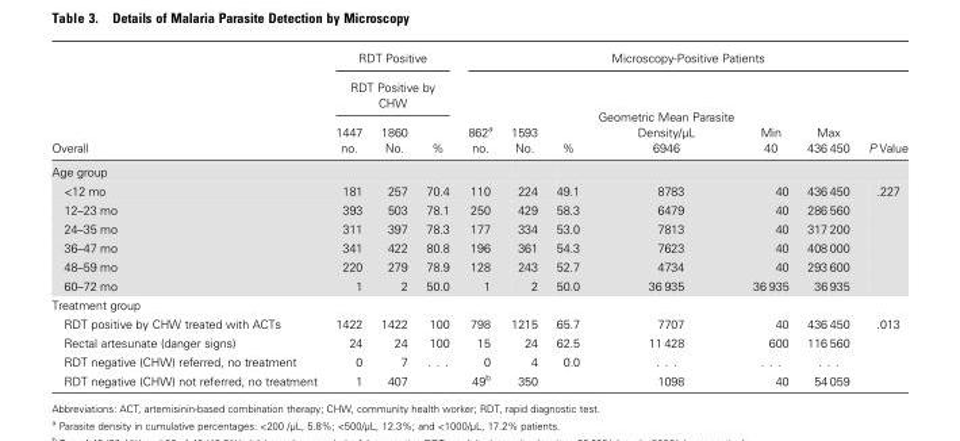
<table><thead><tr><td rowspan="4">Overall</td><td rowspan="2" colspan="3">RDT Positive RDT Positive by CHW</td><td colspan="7">Microscopy-Positive Patients</td></tr><tr><td rowspan="3">862a no.</td><td rowspan="3">1593 No.</td><td rowspan="3">%</td><td rowspan="3">Geometric Mean Parasite Density/µL 6946</td><td rowspan="3">Min 40</td><td rowspan="3">Max 436 450</td><td rowspan="3">P Value</td></tr><tr><td rowspan="2">1447 no.</td><td rowspan="2">1860 No.</td><td rowspan="2">%</td></tr><tr></tr></thead><tbody><tr><td colspan="11">Age group</td></tr><tr><td>&lt;12 mo</td><td>181</td><td>257</td><td>70.4</td><td>110</td><td>224</td><td>49.1</td><td>8783</td><td>40</td><td>436 450</td><td rowspan="6">.227</td></tr><tr><td>12–23 mo</td><td>393</td><td>503</td><td>78.1</td><td>250</td><td>429</td><td>58.3</td><td>6479</td><td>40</td><td>286 560</td></tr><tr><td>24–35 mo</td><td>311</td><td>397</td><td>78.3</td><td>177</td><td>334</td><td>53.0</td><td>7813</td><td>40</td><td>317 200</td></tr><tr><td>36–47 mo</td><td>341</td><td>422</td><td>80.8</td><td>196</td><td>361</td><td>54.3</td><td>7623</td><td>40</td><td>408 000</td></tr><tr><td>48–59 mo</td><td>220</td><td>279</td><td>78.9</td><td>128</td><td>243</td><td>52.7</td><td>4734</td><td>40</td><td>293 600</td></tr><tr><td>60–72 mo</td><td>1</td><td>2</td><td>50.0</td><td>1</td><td>2</td><td>50.0</td><td>36 935</td><td>36 935</td><td>36 935</td></tr><tr><td colspan="11">Treatment group</td></tr><tr><td>RDT positive by CHW treated with ACTs</td><td>1422</td><td>1422</td><td>100</td><td>798</td><td>1215</td><td>65.7</td><td>7707</td><td>40</td><td>436 450</td><td rowspan="4">.013</td></tr><tr><td>Rectal artesunate (danger signs)</td><td>24</td><td>24</td><td>100</td><td>15</td><td>24</td><td>62.5</td><td>11 428</td><td>600</td><td>116 560</td></tr><tr><td>RDT negative (CHW) referred, no treatment</td><td>0</td><td>7</td><td>. . .</td><td>0</td><td>4</td><td>0.0</td><td>. . .</td><td>. . .</td><td>. . .</td></tr><tr><td>RDT negative (CHW) not referred, no treatment</td><td>1</td><td>407</td><td></td><td>49<sup>b</sup></td><td>350</td><td></td><td>1098</td><td>40</td><td>54 059</td></tr></tbody></table>